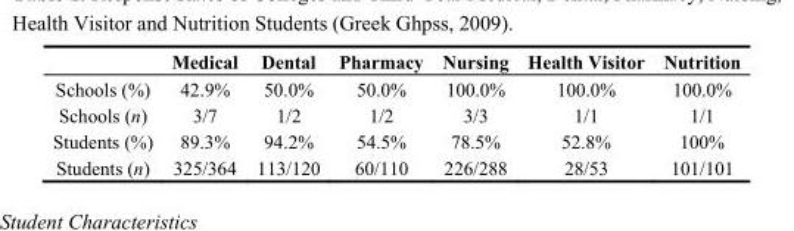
<table><thead><tr><td></td><td>Medical</td><td>Dental</td><td>Pharmacy</td><td>Nursing</td><td>Health Visitor</td><td>Nutrition</td></tr></thead><tbody><tr><td>Schools (%)</td><td>42.9%</td><td>50.0%</td><td>50.0%</td><td>100.0%</td><td>100.0%</td><td>100.0%</td></tr><tr><td>Schools (n)</td><td>3/7</td><td>1/2</td><td>1/2</td><td>3/3</td><td>1/1</td><td>1/1</td></tr><tr><td>Students (%)</td><td>89.3%</td><td>94.2%</td><td>54.5%</td><td>78.5%</td><td>52.8%</td><td>100%</td></tr><tr><td>Students (n)</td><td>325/364</td><td>113/120</td><td>60/110</td><td>226/288</td><td>28/53</td><td>101/101</td></tr></tbody></table>